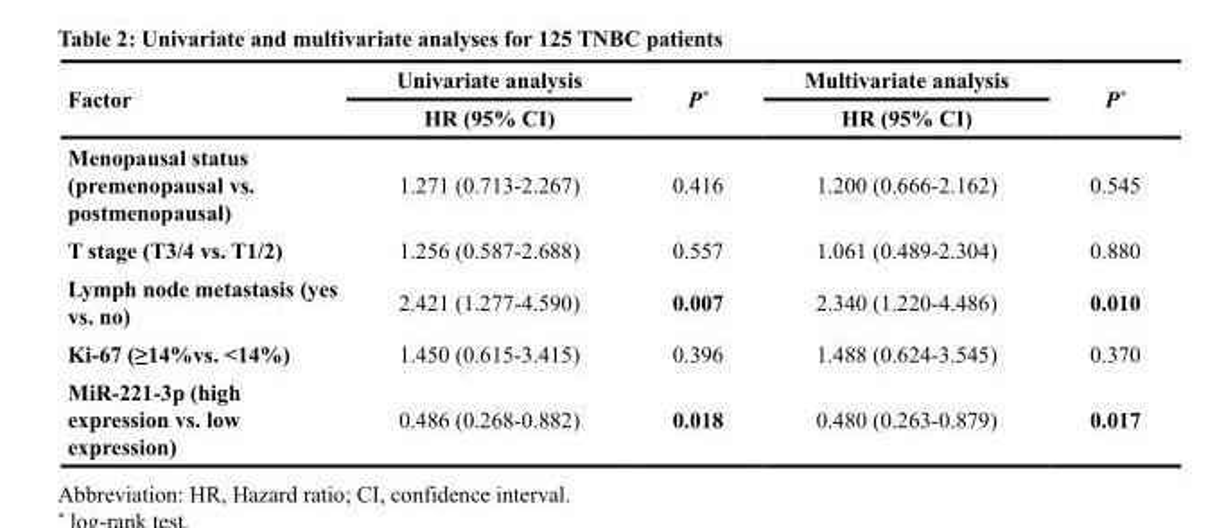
<table><thead><tr><td rowspan="2">Factor</td><td rowspan="2">Univariate analysis HR (95% CI)</td><td rowspan="2">P*</td><td rowspan="2">Multivariate analysis HR (95% CI)</td><td rowspan="2">P*</td></tr><tr></tr></thead><tbody><tr><td>Menopausal status (premenopausal vs. postmenopausal)</td><td>1.271 (0.713-2.267)</td><td>0.416</td><td>1.200 (0.666-2.162)</td><td>0.545</td></tr><tr><td>T stage (T3/4 vs. T1/2)</td><td>1.256 (0.587-2.688)</td><td>0.557</td><td>1.061 (0.489-2.304)</td><td>0.880</td></tr><tr><td>Lymph node metastasis (yes vs. no)</td><td>2.421 (1.277-4.590)</td><td>0.007</td><td>2.340 (1.220-4.486)</td><td>0.010</td></tr><tr><td>Ki-67 (≥14%vs. &lt;14%)</td><td>1.450 (0.615-3.415)</td><td>0.396</td><td>1.488 (0.624-3.545)</td><td>0.370</td></tr><tr><td>MiR-221-3p (high expression vs. low expression)</td><td>0.486 (0.268-0.882)</td><td>0.018</td><td>0.480 (0.263-0.879)</td><td>0.017</td></tr></tbody></table>